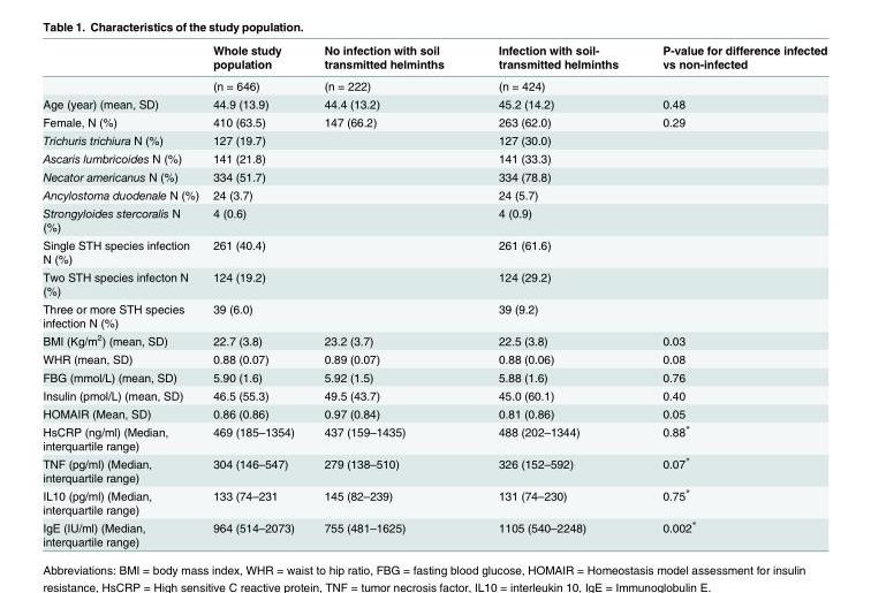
<table><thead><tr><td></td><td>Whole study population</td><td>No infection with soil transmitted helminths</td><td>Infection with soil- transmitted helminths</td><td>P-value for difference infected vs non-infected</td></tr></thead><tbody><tr><td></td><td>(n = 646)</td><td>(n = 222)</td><td>(n = 424)</td><td></td></tr><tr><td>Age (year) (mean, SD)</td><td>44.9 (13.9)</td><td>44.4 (13.2)</td><td>45.2 (14.2)</td><td>0.48</td></tr><tr><td>Female, N (%)</td><td>410 (63.5)</td><td>147 (66.2)</td><td>263 (62.0)</td><td>0.29</td></tr><tr><td>Trichuris trichiura N (%)</td><td>127 (19.7)</td><td></td><td>127 (30.0)</td><td></td></tr><tr><td>Ascaris lumbricoides N (%)</td><td>141 (21.8)</td><td></td><td>141 (33.3)</td><td></td></tr><tr><td>Necator americanus N (%)</td><td>334 (51.7)</td><td></td><td>334 (78.8)</td><td></td></tr><tr><td>Ancylostoma duodenale N (%)</td><td>24 (3.7)</td><td></td><td>24 (5.7)</td><td></td></tr><tr><td>Strongyloides stercoralis N (%)</td><td>4 (0.6)</td><td></td><td>4 (0.9)</td><td></td></tr><tr><td>Single STH species infection N (%)</td><td>261 (40.4)</td><td></td><td>261 (61.6)</td><td></td></tr><tr><td>Two STH species infecton N (%)</td><td>124 (19.2)</td><td></td><td>124 (29.2)</td><td></td></tr><tr><td>Three or more STH species infection N (%)</td><td>39 (6.0)</td><td></td><td>39 (9.2)</td><td></td></tr><tr><td>BMI (Kg/m<sup>2</sup>) (mean, SD)</td><td>22.7 (3.8)</td><td>23.2 (3.7)</td><td>22.5 (3.8)</td><td>0.03</td></tr><tr><td>WHR (mean, SD)</td><td>0.88 (0.07)</td><td>0.89 (0.07)</td><td>0.88 (0.06)</td><td>0.08</td></tr><tr><td>FBG (mmol/L) (mean, SD)</td><td>5.90 (1.6)</td><td>5.92 (1.5)</td><td>5.88 (1.6)</td><td>0.76</td></tr><tr><td>Insulin (pmol/L) (mean, SD)</td><td>46.5 (55.3)</td><td>49.5 (43.7)</td><td>45.0 (60.1)</td><td>0.40</td></tr><tr><td>HOMAIR (Mean, SD)</td><td>0.86 (0.86)</td><td>0.97 (0.84)</td><td>0.81 (0.86)</td><td>0.05</td></tr><tr><td>HsCRP (ng/ml) (Median, interquartile range)</td><td>469 (185–1354)</td><td>437 (159–1435)</td><td>488 (202–1344)</td><td>0.88*</td></tr><tr><td>TNF (pg/ml) (Median, interquartile range)</td><td>304 (146–547)</td><td>279 (138–510)</td><td>326 (152–592)</td><td>0.07*</td></tr><tr><td>IL10 (pg/ml) (Median, interquartile range)</td><td>133 (74–231</td><td>145 (82–239)</td><td>131 (74–230)</td><td>0.75*</td></tr><tr><td>IgE (IU/ml) (Median, interquartile range)</td><td>964 (514–2073)</td><td>755 (481–1625)</td><td>1105 (540–2248)</td><td>0.002*</td></tr></tbody></table>